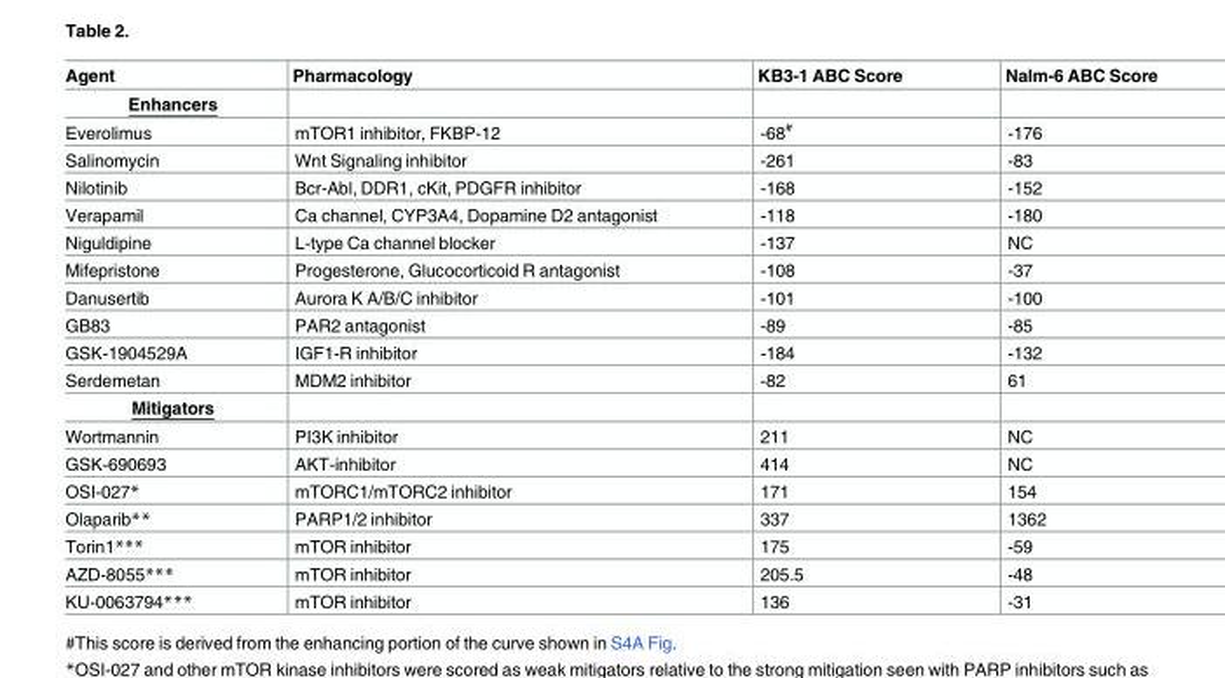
<table><thead><tr><td>Agent</td><td>Pharmacology</td><td>KB3-1 ABC Score</td><td>Nalm-6 ABC Score</td></tr></thead><tbody><tr><td colspan="4">Enhancers</td></tr><tr><td>Everolimus</td><td>mTOR1 inhibitor, FKBP-12</td><td>-68<sup>#</sup></td><td>-176</td></tr><tr><td>Salinomycin</td><td>Wnt Signaling inhibitor</td><td>-261</td><td>-83</td></tr><tr><td>Nilotinib</td><td>Bcr-Abl, DDR1, cKit, PDGFR inhibitor</td><td>-168</td><td>-152</td></tr><tr><td>Verapamil</td><td>Ca channel, CYP3A4, Dopamine D2 antagonist</td><td>-118</td><td>-180</td></tr><tr><td>Niguldipine</td><td>L-type Ca channel blocker</td><td>-137</td><td>NC</td></tr><tr><td>Mifepristone</td><td>Progesterone, Glucocorticoid R antagonist</td><td>-108</td><td>-37</td></tr><tr><td>Danusertib</td><td>Aurora K A/B/C inhibitor</td><td>-101</td><td>-100</td></tr><tr><td>GB83</td><td>PAR2 antagonist</td><td>-89</td><td>-85</td></tr><tr><td>GSK-1904529A</td><td>IGF1-R inhibitor</td><td>-184</td><td>-132</td></tr><tr><td>Serdemetan</td><td>MDM2 inhibitor</td><td>-82</td><td>61</td></tr><tr><td colspan="4">Mitigators</td></tr><tr><td>Wortmannin</td><td>PI3K inhibitor</td><td>211</td><td>NC</td></tr><tr><td>GSK-690693</td><td>AKT-inhibitor</td><td>414</td><td>NC</td></tr><tr><td>OSI-027*</td><td>mTORC1/mTORC2 inhibitor</td><td>171</td><td>154</td></tr><tr><td>Olaparib**</td><td>PARP1/2 inhibitor</td><td>337</td><td>1362</td></tr><tr><td>Torin1***</td><td>mTOR inhibitor</td><td>175</td><td>-59</td></tr><tr><td>AZD-8055***</td><td>mTOR inhibitor</td><td>205.5</td><td>-48</td></tr><tr><td>KU-0063794***</td><td>mTOR inhibitor</td><td>136</td><td>-31</td></tr></tbody></table>